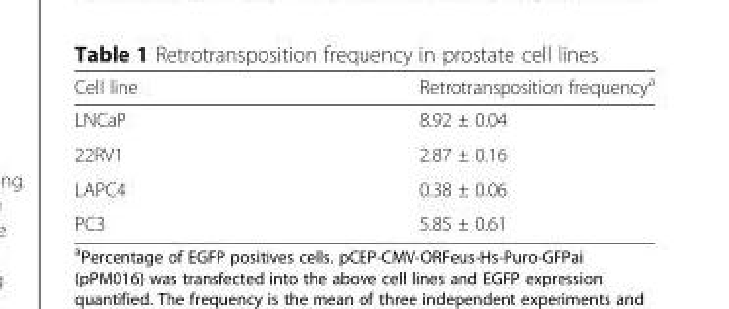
<table><thead><tr><td>Cell line</td><td>Retrotransposition frequency<sup>a</sup></td></tr></thead><tbody><tr><td>LNCaP</td><td>8.92 ± 0.04</td></tr><tr><td>22RV1</td><td>2.87 ± 0.16</td></tr><tr><td>LAPC4</td><td>0.38 ± 0.06</td></tr><tr><td>PC3</td><td>5.85 ± 0.61</td></tr></tbody></table>